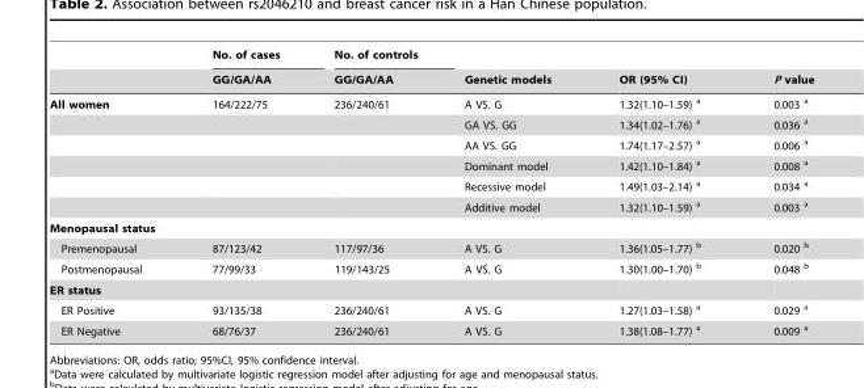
<table><thead><tr><td rowspan="2"></td><td rowspan="2">No. of cases GG/GA/AA</td><td rowspan="2">No. of controls GG/GA/AA</td><td rowspan="2">Genetic models</td><td rowspan="2">OR (95% CI)</td><td rowspan="2">P value</td></tr><tr></tr></thead><tbody><tr><td rowspan="6">All women</td><td>164/222/75</td><td>236/240/61</td><td>A VS. G</td><td>1.32(1.10–1.59) a</td><td>0.003 a</td></tr><tr><td></td><td></td><td>GA VS. GG</td><td>1.34(1.02–1.76) a</td><td>0.036 a</td></tr><tr><td></td><td></td><td>AA VS. GG</td><td>1.74(1.17–2.57) a</td><td>0.006 a</td></tr><tr><td></td><td></td><td>Dominant model</td><td>1.42(1.10–1.84) a</td><td>0.008 a</td></tr><tr><td></td><td></td><td>Recessive model</td><td>1.49(1.03–2.14) a</td><td>0.034 a</td></tr><tr><td></td><td></td><td>Additive model</td><td>1.32(1.10–1.59) a</td><td>0.003 a</td></tr><tr><td colspan="6">Menopausal status</td></tr><tr><td>Premenopausal</td><td>87/123/42</td><td>117/97/36</td><td>A VS. G</td><td>1.36(1.05–1.77) b</td><td>0.020 b</td></tr><tr><td>Postmenopausal</td><td>77/99/33</td><td>119/143/25</td><td>A VS. G</td><td>1.30(1.00–1.70) b</td><td>0.048 b</td></tr><tr><td colspan="6">ER status</td></tr><tr><td>ER Positive</td><td>93/135/38</td><td>236/240/61</td><td>A VS. G</td><td>1.27(1.03–1.58) a</td><td>0.029 a</td></tr><tr><td>ER Negative</td><td>68/76/37</td><td>236/240/61</td><td>A VS. G</td><td>1.38(1.08–1.77) a</td><td>0.009 a</td></tr></tbody></table>